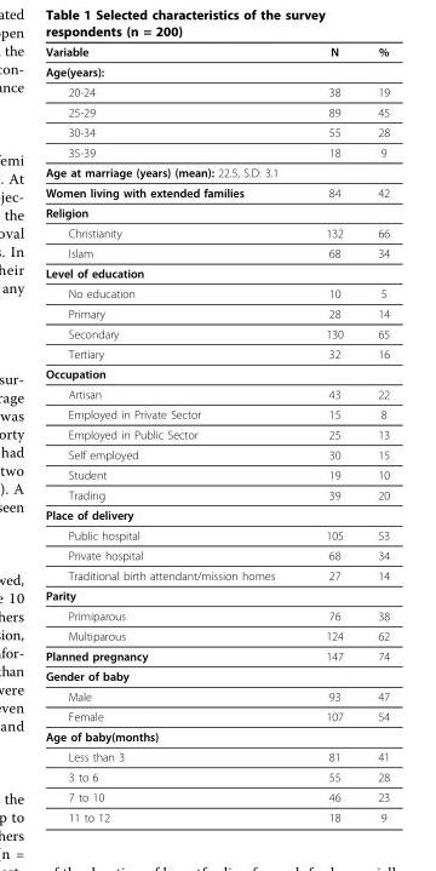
<table><thead><tr><td>Variable</td><td>N</td><td>%</td></tr></thead><tbody><tr><td colspan="3">Age(years):</td></tr><tr><td>20-24</td><td>38</td><td>19</td></tr><tr><td>25-29</td><td>89</td><td>45</td></tr><tr><td>30-34</td><td>55</td><td>28</td></tr><tr><td>35-39</td><td>18</td><td>9</td></tr><tr><td colspan="3">Age at marriage (years) (mean): 22.5, S.D: 3.1</td></tr><tr><td>Women living with extended families</td><td>84</td><td>42</td></tr><tr><td colspan="3">Religion</td></tr><tr><td>Christianity</td><td>132</td><td>66</td></tr><tr><td>Islam</td><td>68</td><td>34</td></tr><tr><td colspan="3">Level of education</td></tr><tr><td>No education</td><td>10</td><td>5</td></tr><tr><td>Primary</td><td>28</td><td>14</td></tr><tr><td>Secondary</td><td>130</td><td>65</td></tr><tr><td>Tertiary</td><td>32</td><td>16</td></tr><tr><td colspan="3">Occupation</td></tr><tr><td>Artisan</td><td>43</td><td>22</td></tr><tr><td>Employed in Private Sector</td><td>15</td><td>8</td></tr><tr><td>Employed in Public Sector</td><td>25</td><td>13</td></tr><tr><td>Self employed</td><td>30</td><td>15</td></tr><tr><td>Student</td><td>19</td><td>10</td></tr><tr><td>Trading</td><td>39</td><td>20</td></tr><tr><td colspan="3">Place of delivery</td></tr><tr><td>Public hospital</td><td>105</td><td>53</td></tr><tr><td>Private hospital</td><td>68</td><td>34</td></tr><tr><td>Traditional birth attendant/mission homes</td><td>27</td><td>14</td></tr><tr><td colspan="3">Parity</td></tr><tr><td>Primiparous</td><td>76</td><td>38</td></tr><tr><td>Multiparous</td><td>124</td><td>62</td></tr><tr><td>Planned pregnancy</td><td>147</td><td>74</td></tr><tr><td colspan="3">Gender of baby</td></tr><tr><td>Male</td><td>93</td><td>47</td></tr><tr><td>Female</td><td>107</td><td>54</td></tr><tr><td colspan="3">Age of baby(months)</td></tr><tr><td>Less than 3</td><td>81</td><td>41</td></tr><tr><td>3 to 6</td><td>55</td><td>28</td></tr><tr><td>7 to 10</td><td>46</td><td>23</td></tr><tr><td>11 to 12</td><td>18</td><td>9</td></tr></tbody></table>